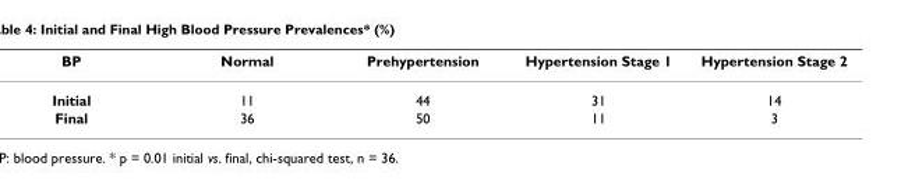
<table><thead><tr><td>BP</td><td>Normal</td><td>Prehypertension</td><td>Hypertension Stage 1</td><td>Hypertension Stage 2</td></tr></thead><tbody><tr><td>Initial</td><td>11</td><td>44</td><td>31</td><td>14</td></tr><tr><td>Final</td><td>36</td><td>50</td><td>11</td><td>3</td></tr></tbody></table>